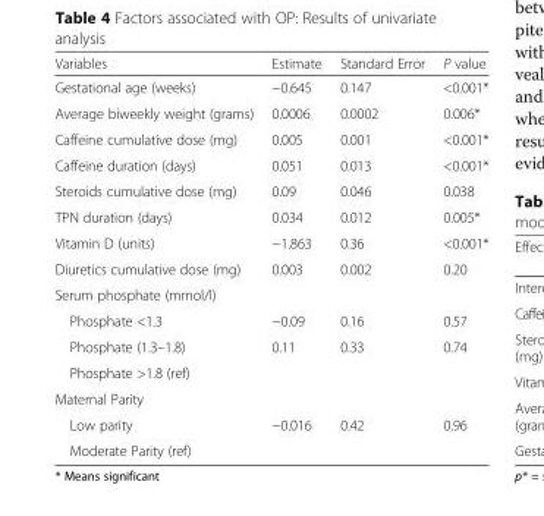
<table><thead><tr><td>Variables</td><td>Estimate</td><td>Standard Error</td><td>P value</td></tr></thead><tbody><tr><td>Gestational age (weeks)</td><td>−0.645</td><td>0.147</td><td>&lt;0.001*</td></tr><tr><td>Average biweekly weight (grams)</td><td>0.0006</td><td>0.0002</td><td>0.006*</td></tr><tr><td>Caffeine cumulative dose (mg)</td><td>0.005</td><td>0.001</td><td>&lt;0.001*</td></tr><tr><td>Caffeine duration (days)</td><td>0.051</td><td>0.013</td><td>&lt;0.001*</td></tr><tr><td>Steroids cumulative dose (mg)</td><td>0.09</td><td>0.046</td><td>0.038</td></tr><tr><td>TPN duration (days)</td><td>0.034</td><td>0.012</td><td>0.005*</td></tr><tr><td>Vitamin D (units)</td><td>−1.863</td><td>0.36</td><td>&lt;0.001*</td></tr><tr><td>Diuretics cumulative dose (mg)</td><td>0.003</td><td>0.002</td><td>0.20</td></tr><tr><td colspan="4">Serum phosphate (mmol/l)</td></tr><tr><td>Phosphate &lt;1.3</td><td>−0.09</td><td>0.16</td><td>0.57</td></tr><tr><td>Phosphate (1.3–1.8)</td><td>0.11</td><td>0.33</td><td>0.74</td></tr><tr><td colspan="4">Phosphate &gt;1.8 (ref)</td></tr><tr><td colspan="4">Maternal Parity</td></tr><tr><td>Low parity</td><td>−0.016</td><td>0.42</td><td>0.96</td></tr><tr><td>Moderate Parity (ref)</td><td></td><td></td><td></td></tr></tbody></table>